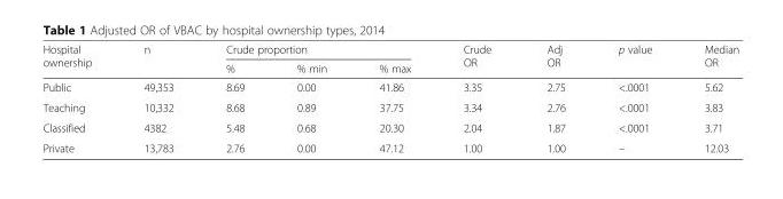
<table><thead><tr><td rowspan="2">Hospital ownership</td><td rowspan="2">n</td><td colspan="3">Crude proportion</td><td rowspan="2">Crude OR</td><td rowspan="2">Adj OR</td><td rowspan="2">p value</td><td rowspan="2">Median OR</td></tr><tr><td>%</td><td>% min</td><td>% max</td></tr></thead><tbody><tr><td>Public</td><td>49,353</td><td>8.69</td><td>0.00</td><td>41.86</td><td>3.35</td><td>2.75</td><td>&lt;.0001</td><td>5.62</td></tr><tr><td>Teaching</td><td>10,332</td><td>8.68</td><td>0.89</td><td>37.75</td><td>3.34</td><td>2.76</td><td>&lt;.0001</td><td>3.83</td></tr><tr><td>Classified</td><td>4382</td><td>5.48</td><td>0.68</td><td>20.30</td><td>2.04</td><td>1.87</td><td>&lt;.0001</td><td>3.71</td></tr><tr><td>Private</td><td>13,783</td><td>2.76</td><td>0.00</td><td>47.12</td><td>1.00</td><td>1.00</td><td>–</td><td>12.03</td></tr></tbody></table>